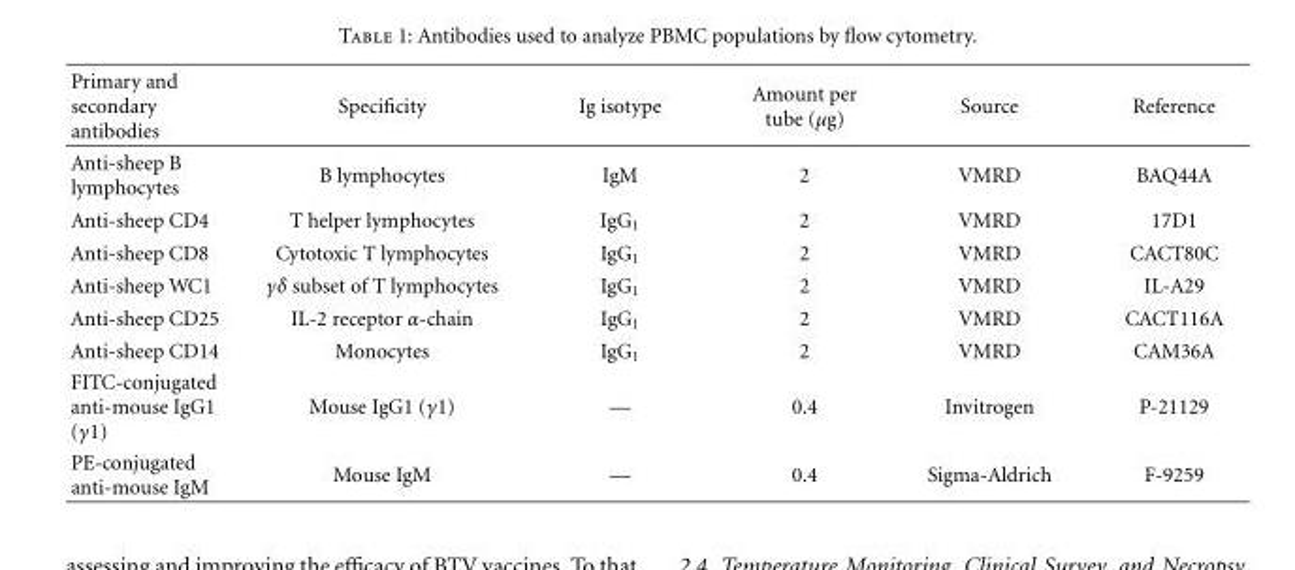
<table><thead><tr><td>Primary and secondary antibodies</td><td>Specificity</td><td>Ig isotype</td><td>Amount per tube (μg)</td><td>Source</td><td>Reference</td></tr></thead><tbody><tr><td>Anti-sheep B lymphocytes</td><td>B lymphocytes</td><td>IgM</td><td>2</td><td>VMRD</td><td>BAQ44A</td></tr><tr><td>Anti-sheep CD4</td><td>T helper lymphocytes</td><td>IgG<sub>1</sub></td><td>2</td><td>VMRD</td><td>17D1</td></tr><tr><td>Anti-sheep CD8</td><td>Cytotoxic T lymphocytes</td><td>IgG<sub>1</sub></td><td>2</td><td>VMRD</td><td>CACT80C</td></tr><tr><td>Anti-sheep WC1</td><td>γδ subset of T lymphocytes</td><td>IgG<sub>1</sub></td><td>2</td><td>VMRD</td><td>IL-A29</td></tr><tr><td>Anti-sheep CD25</td><td>IL-2 receptor α-chain</td><td>IgG<sub>1</sub></td><td>2</td><td>VMRD</td><td>CACT116A</td></tr><tr><td>Anti-sheep CD14</td><td>Monocytes</td><td>IgG<sub>1</sub></td><td>2</td><td>VMRD</td><td>CAM36A</td></tr><tr><td>FITC-conjugated anti-mouse IgG1 (γ1)</td><td>Mouse IgG1 (γ1)</td><td>—</td><td>0.4</td><td>Invitrogen</td><td>P-21129</td></tr><tr><td>PE-conjugated anti-mouse IgM</td><td>Mouse IgM</td><td>—</td><td>0.4</td><td>Sigma-Aldrich</td><td>F-9259</td></tr></tbody></table>